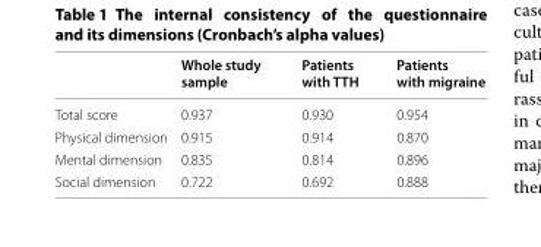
<table><thead><tr><td></td><td>Whole study sample</td><td>Patients with TTH</td><td>Patients with migraine</td></tr></thead><tbody><tr><td>Total score</td><td>0.937</td><td>0.930</td><td>0.954</td></tr><tr><td>Physical dimension</td><td>0.915</td><td>0.914</td><td>0.870</td></tr><tr><td>Mental dimension</td><td>0.835</td><td>0.814</td><td>0.896</td></tr><tr><td>Social dimension</td><td>0.722</td><td>0.692</td><td>0.888</td></tr></tbody></table>